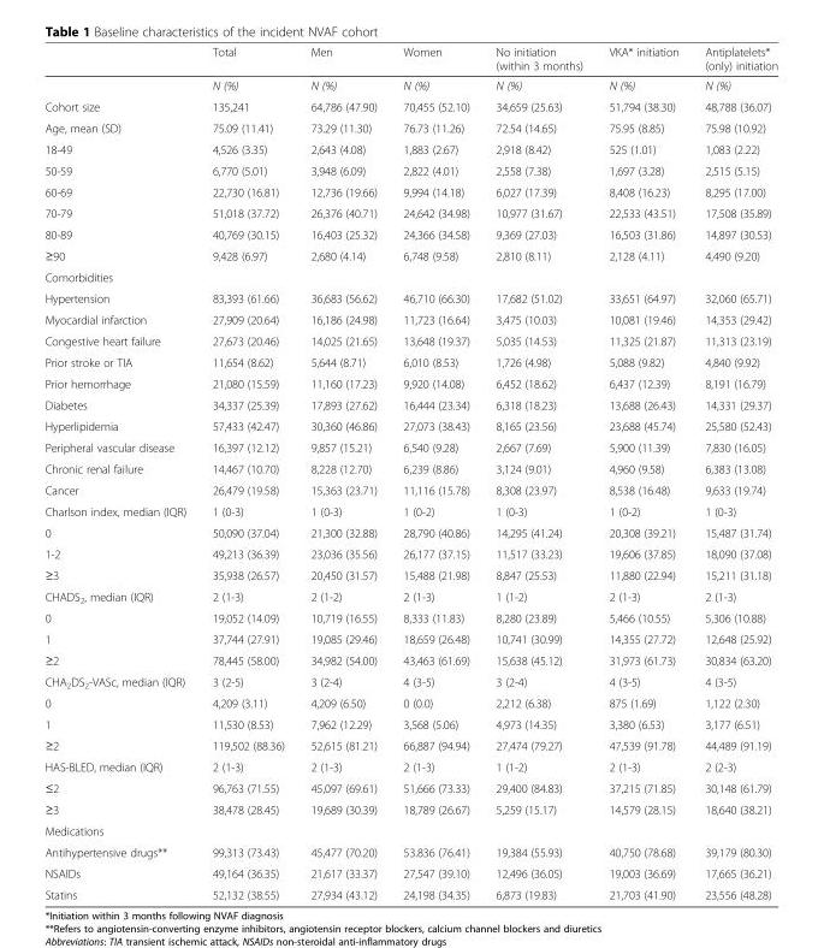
<table><thead><tr><td></td><td>Total</td><td>Men</td><td>Women</td><td>No initiation (within 3 months)</td><td>VKA* initiation</td><td>Antiplatelets* (only) initiation</td></tr></thead><tbody><tr><td></td><td>N (%)</td><td>N (%)</td><td>N (%)</td><td>N (%)</td><td>N (%)</td><td>N (%)</td></tr><tr><td>Cohort size</td><td>135,241</td><td>64,786 (47.90)</td><td>70,455 (52.10)</td><td>34,659 (25.63)</td><td>51,794 (38.30)</td><td>48,788 (36.07)</td></tr><tr><td>Age, mean (SD)</td><td>75.09 (11.41)</td><td>73.29 (11.30)</td><td>76.73 (11.26)</td><td>72.54 (14.65)</td><td>75.95 (8.85)</td><td>75.98 (10.92)</td></tr><tr><td>18-49</td><td>4,526 (3.35)</td><td>2,643 (4.08)</td><td>1,883 (2.67)</td><td>2,918 (8.42)</td><td>525 (1.01)</td><td>1,083 (2.22)</td></tr><tr><td>50-59</td><td>6,770 (5.01)</td><td>3,948 (6.09)</td><td>2,822 (4.01)</td><td>2,558 (7.38)</td><td>1,697 (3.28)</td><td>2,515 (5.15)</td></tr><tr><td>60-69</td><td>22,730 (16.81)</td><td>12,736 (19.66)</td><td>9,994 (14.18)</td><td>6,027 (17.39)</td><td>8,408 (16.23)</td><td>8,295 (17.00)</td></tr><tr><td>70-79</td><td>51,018 (37.72)</td><td>26,376 (40.71)</td><td>24,642 (34.98)</td><td>10,977 (31.67)</td><td>22,533 (43.51)</td><td>17,508 (35.89)</td></tr><tr><td>80-89</td><td>40,769 (30.15)</td><td>16,403 (25.32)</td><td>24,366 (34.58)</td><td>9,369 (27.03)</td><td>16,503 (31.86)</td><td>14,897 (30.53)</td></tr><tr><td>≥90</td><td>9,428 (6.97)</td><td>2,680 (4.14)</td><td>6,748 (9.58)</td><td>2,810 (8.11)</td><td>2,128 (4.11)</td><td>4,490 (9.20)</td></tr><tr><td colspan="7">Comorbidities</td></tr><tr><td>Hypertension</td><td>83,393 (61.66)</td><td>36,683 (56.62)</td><td>46,710 (66.30)</td><td>17,682 (51.02)</td><td>33,651 (64.97)</td><td>32,060 (65.71)</td></tr><tr><td>Myocardial infarction</td><td>27,909 (20.64)</td><td>16,186 (24.98)</td><td>11,723 (16.64)</td><td>3,475 (10.03)</td><td>10,081 (19.46)</td><td>14,353 (29.42)</td></tr><tr><td>Congestive heart failure</td><td>27,673 (20.46)</td><td>14,025 (21.65)</td><td>13,648 (19.37)</td><td>5,035 (14.53)</td><td>11,325 (21.87)</td><td>11,313 (23.19)</td></tr><tr><td>Prior stroke or TIA</td><td>11,654 (8.62)</td><td>5,644 (8.71)</td><td>6,010 (8.53)</td><td>1,726 (4.98)</td><td>5,088 (9.82)</td><td>4,840 (9.92)</td></tr><tr><td>Prior hemorrhage</td><td>21,080 (15.59)</td><td>11,160 (17.23)</td><td>9,920 (14.08)</td><td>6,452 (18.62)</td><td>6,437 (12.39)</td><td>8,191 (16.79)</td></tr><tr><td>Diabetes</td><td>34,337 (25.39)</td><td>17,893 (27.62)</td><td>16,444 (23.34)</td><td>6,318 (18.23)</td><td>13,688 (26.43)</td><td>14,331 (29.37)</td></tr><tr><td>Hyperlipidemia</td><td>57,433 (42.47)</td><td>30,360 (46.86)</td><td>27,073 (38.43)</td><td>8,165 (23.56)</td><td>23,688 (45.74)</td><td>25,580 (52.43)</td></tr><tr><td>Peripheral vascular disease</td><td>16,397 (12.12)</td><td>9,857 (15.21)</td><td>6,540 (9.28)</td><td>2,667 (7.69)</td><td>5,900 (11.39)</td><td>7,830 (16.05)</td></tr><tr><td>Chronic renal failure</td><td>14,467 (10.70)</td><td>8,228 (12.70)</td><td>6,239 (8.86)</td><td>3,124 (9.01)</td><td>4,960 (9.58)</td><td>6,383 (13.08)</td></tr><tr><td>Cancer</td><td>26,479 (19.58)</td><td>15,363 (23.71)</td><td>11,116 (15.78)</td><td>8,308 (23.97)</td><td>8,538 (16.48)</td><td>9,633 (19.74)</td></tr><tr><td>Charlson index, median (IQR)</td><td>1 (0-3)</td><td>1 (0-3)</td><td>1 (0-2)</td><td>1 (0-3)</td><td>1 (0-2)</td><td>1 (0-3)</td></tr><tr><td>0</td><td>50,090 (37.04)</td><td>21,300 (32.88)</td><td>28,790 (40.86)</td><td>14,295 (41.24)</td><td>20,308 (39.21)</td><td>15,487 (31.74)</td></tr><tr><td>1-2</td><td>49,213 (36.39)</td><td>23,036 (35.56)</td><td>26,177 (37.15)</td><td>11,517 (33.23)</td><td>19,606 (37.85)</td><td>18,090 (37.08)</td></tr><tr><td>≥3</td><td>35,938 (26.57)</td><td>20,450 (31.57)</td><td>15,488 (21.98)</td><td>8,847 (25.53)</td><td>11,880 (22.94)</td><td>15,211 (31.18)</td></tr><tr><td>CHADS<sub>2</sub>, median (IQR)</td><td>2 (1-3)</td><td>2 (1-2)</td><td>2 (1-3)</td><td>1 (1-2)</td><td>2 (1-3)</td><td>2 (1-3)</td></tr><tr><td>0</td><td>19,052 (14.09)</td><td>10,719 (16.55)</td><td>8,333 (11.83)</td><td>8,280 (23.89)</td><td>5,466 (10.55)</td><td>5,306 (10.88)</td></tr><tr><td>1</td><td>37,744 (27.91)</td><td>19,085 (29.46)</td><td>18,659 (26.48)</td><td>10,741 (30.99)</td><td>14,355 (27.72)</td><td>12,648 (25.92)</td></tr><tr><td>≥2</td><td>78,445 (58.00)</td><td>34,982 (54.00)</td><td>43,463 (61.69)</td><td>15,638 (45.12)</td><td>31,973 (61.73)</td><td>30,834 (63.20)</td></tr><tr><td>CHA<sub>2</sub>DS<sub>2</sub>-VASc, median (IQR)</td><td>3 (2-5)</td><td>3 (2-4)</td><td>4 (3-5)</td><td>3 (2-4)</td><td>4 (3-5)</td><td>4 (3-5)</td></tr><tr><td>0</td><td>4,209 (3.11)</td><td>4,209 (6.50)</td><td>0 (0.0)</td><td>2,212 (6.38)</td><td>875 (1.69)</td><td>1,122 (2.30)</td></tr><tr><td>1</td><td>11,530 (8.53)</td><td>7,962 (12.29)</td><td>3,568 (5.06)</td><td>4,973 (14.35)</td><td>3,380 (6.53)</td><td>3,177 (6.51)</td></tr><tr><td>≥2</td><td>119,502 (88.36)</td><td>52,615 (81.21)</td><td>66,887 (94.94)</td><td>27,474 (79.27)</td><td>47,539 (91.78)</td><td>44,489 (91.19)</td></tr><tr><td>HAS-BLED, median (IQR)</td><td>2 (1-3)</td><td>2 (1-3)</td><td>2 (1-3)</td><td>1 (1-2)</td><td>2 (1-3)</td><td>2 (2-3)</td></tr><tr><td>≤2</td><td>96,763 (71.55)</td><td>45,097 (69.61)</td><td>51,666 (73.33)</td><td>29,400 (84.83)</td><td>37,215 (71.85)</td><td>30,148 (61.79)</td></tr><tr><td>≥3</td><td>38,478 (28.45)</td><td>19,689 (30.39)</td><td>18,789 (26.67)</td><td>5,259 (15.17)</td><td>14,579 (28.15)</td><td>18,640 (38.21)</td></tr><tr><td colspan="7">Medications</td></tr><tr><td>Antihypertensive drugs**</td><td>99,313 (73.43)</td><td>45,477 (70.20)</td><td>53.836 (76.41)</td><td>19,384 (55.93)</td><td>40,750 (78.68)</td><td>39,179 (80.30)</td></tr><tr><td>NSAIDs</td><td>49,164 (36.35)</td><td>21,617 (33.37)</td><td>27,547 (39.10)</td><td>12,496 (36.05)</td><td>19,003 (36.69)</td><td>17,665 (36.21)</td></tr><tr><td>Statins</td><td>52,132 (38.55)</td><td>27,934 (43.12)</td><td>24,198 (34.35)</td><td>6,873 (19.83)</td><td>21,703 (41.90)</td><td>23,556 (48.28)</td></tr></tbody></table>